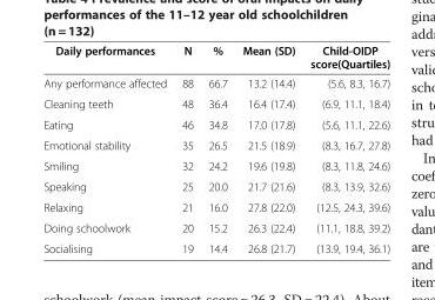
<table><thead><tr><td>Daily performances</td><td>N</td><td>%</td><td>Mean (SD)</td><td>Child-OIDP score(Quartiles)</td></tr></thead><tbody><tr><td>Any performance affected</td><td>88</td><td>66.7</td><td>13.2 (14.4)</td><td>(5.6, 8.3, 16.7)</td></tr><tr><td>Cleaning teeth</td><td>48</td><td>36.4</td><td>16.4 (17.4)</td><td>(6.9, 11.1, 18.4)</td></tr><tr><td>Eating</td><td>46</td><td>34.8</td><td>17.0 (17.8)</td><td>(5.6, 11.1, 22.6)</td></tr><tr><td>Emotional stability</td><td>35</td><td>26.5</td><td>21.5 (18.9)</td><td>(8.3, 16.7, 27.8)</td></tr><tr><td>Smiling</td><td>32</td><td>24.2</td><td>19.6 (19.8)</td><td>(8.3, 11.8, 24.6)</td></tr><tr><td>Speaking</td><td>25</td><td>20.0</td><td>21.7 (21.6)</td><td>(8.3, 13.9, 32.6)</td></tr><tr><td>Relaxing</td><td>21</td><td>16.0</td><td>27.8 (22.0)</td><td>(12.5, 24.3, 39.6)</td></tr><tr><td>Doing schoolwork</td><td>20</td><td>15.2</td><td>26.3 (22.4)</td><td>(11.1, 18.8, 39.2)</td></tr><tr><td>Socialising</td><td>19</td><td>14.4</td><td>26.8 (21.7)</td><td>(13.9, 19.4, 36.1)</td></tr></tbody></table>